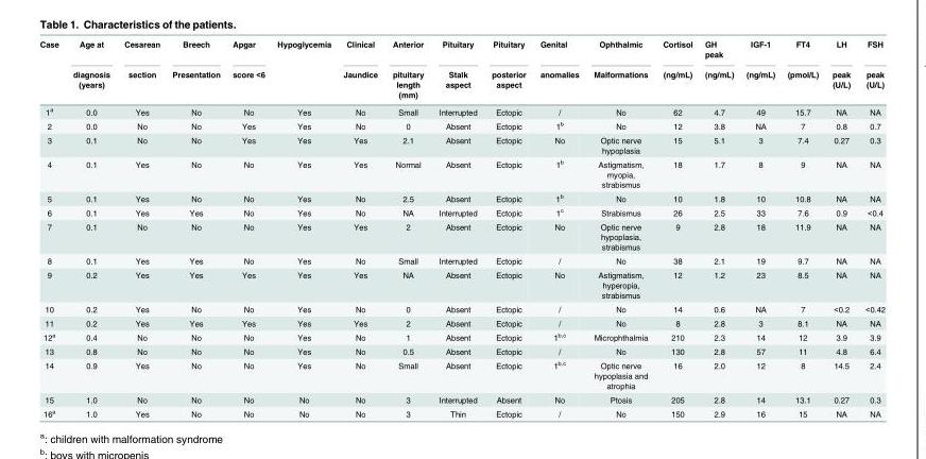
<table><thead><tr><td rowspan="2">Case</td><td rowspan="2">Age at diagnosis (years)</td><td rowspan="2">Cesarean section</td><td rowspan="2">Breech Presentation</td><td rowspan="2">Apgar score &lt;6</td><td rowspan="2">Hypoglycemia</td><td rowspan="2">Clinical Jaundice</td><td rowspan="2">Anterior pituitary length (mm)</td><td rowspan="2">Pituitary Stalk aspect</td><td rowspan="2">Pituitary posterior aspect</td><td rowspan="2">Genital anomalies</td><td rowspan="2">Ophthalmic Malformations</td><td rowspan="2">Cortisol (ng/mL)</td><td rowspan="2">GH peak (ng/mL)</td><td rowspan="2">IGF-1 (ng/mL)</td><td rowspan="2">FT4 (pmol/L)</td><td rowspan="2">LH peak (U/L)</td><td rowspan="2">FSH peak (U/L)</td></tr><tr></tr></thead><tbody><tr><td>1<sup>a</sup></td><td>0.0</td><td>Yes</td><td>No</td><td>No</td><td>Yes</td><td>No</td><td>Small</td><td>Interrupted</td><td>Ectopic</td><td>/</td><td>No</td><td>62</td><td>4.7</td><td>49</td><td>15.7</td><td>NA</td><td>NA</td></tr><tr><td>2</td><td>0.0</td><td>No</td><td>No</td><td>Yes</td><td>Yes</td><td>No</td><td>0</td><td>Absent</td><td>Ectopic</td><td>1<sup>b</sup></td><td>No</td><td>12</td><td>3.8</td><td>NA</td><td>7</td><td>0.8</td><td>0.7</td></tr><tr><td>3</td><td>0.1</td><td>No</td><td>No</td><td>Yes</td><td>Yes</td><td>Yes</td><td>2.1</td><td>Absent</td><td>Ectopic</td><td>No</td><td>Optic nerve hypoplasia</td><td>15</td><td>5.1</td><td>3</td><td>7.4</td><td>0.27</td><td>0.3</td></tr><tr><td>4</td><td>0.1</td><td>Yes</td><td>No</td><td>No</td><td>Yes</td><td>Yes</td><td>Normal</td><td>Absent</td><td>Ectopic</td><td>1<sup>b</sup></td><td>Astigmatism, myopia, strabismus</td><td>18</td><td>1.7</td><td>8</td><td>9</td><td>NA</td><td>NA</td></tr><tr><td>5</td><td>0.1</td><td>Yes</td><td>No</td><td>No</td><td>Yes</td><td>No</td><td>2.5</td><td>Absent</td><td>Ectopic</td><td>1<sup>b</sup></td><td>No</td><td>10</td><td>1.8</td><td>10</td><td>10.8</td><td>NA</td><td>NA</td></tr><tr><td>6</td><td>0.1</td><td>Yes</td><td>Yes</td><td>No</td><td>Yes</td><td>No</td><td>NA</td><td>Interrupted</td><td>Ectopic</td><td>1<sup>c</sup></td><td>Strabismus</td><td>26</td><td>2.5</td><td>33</td><td>7.6</td><td>0.9</td><td>&lt;0.4</td></tr><tr><td>7</td><td>0.1</td><td>No</td><td>No</td><td>No</td><td>Yes</td><td>Yes</td><td>2</td><td>Absent</td><td>Ectopic</td><td>No</td><td>Optic nerve hypoplasia, strabismus</td><td>9</td><td>2.8</td><td>18</td><td>11.9</td><td>NA</td><td>NA</td></tr><tr><td>8</td><td>0.1</td><td>Yes</td><td>Yes</td><td>No</td><td>Yes</td><td>No</td><td>Small</td><td>Interrupted</td><td>Ectopic</td><td>/</td><td>No</td><td>38</td><td>2.1</td><td>19</td><td>9.7</td><td>NA</td><td>NA</td></tr><tr><td>9</td><td>0.2</td><td>Yes</td><td>Yes</td><td>Yes</td><td>Yes</td><td>Yes</td><td>NA</td><td>Absent</td><td>Ectopic</td><td>No</td><td>Astigmatism, hyperopia, strabismus</td><td>12</td><td>1.2</td><td>23</td><td>8.5</td><td>NA</td><td>NA</td></tr><tr><td>10</td><td>0.2</td><td>Yes</td><td>No</td><td>No</td><td>Yes</td><td>No</td><td>0</td><td>Absent</td><td>Ectopic</td><td>/</td><td>No</td><td>14</td><td>0.6</td><td>NA</td><td>7</td><td>&lt;0.2</td><td>&lt;0.42</td></tr><tr><td>11</td><td>0.2</td><td>Yes</td><td>Yes</td><td>Yes</td><td>Yes</td><td>Yes</td><td>2</td><td>Absent</td><td>Ectopic</td><td>/</td><td>No</td><td>8</td><td>2.8</td><td>3</td><td>8.1</td><td>NA</td><td>NA</td></tr><tr><td>12<sup>a</sup></td><td>0.4</td><td>No</td><td>No</td><td>No</td><td>Yes</td><td>No</td><td>1</td><td>Absent</td><td>Ectopic</td><td>1<sup>b,c</sup></td><td>Microphthalmia</td><td>210</td><td>2.3</td><td>14</td><td>12</td><td>3.9</td><td>3.9</td></tr><tr><td>13</td><td>0.8</td><td>No</td><td>No</td><td>No</td><td>Yes</td><td>No</td><td>0.5</td><td>Absent</td><td>Ectopic</td><td>/</td><td>No</td><td>130</td><td>2.8</td><td>57</td><td>11</td><td>4.8</td><td>6.4</td></tr><tr><td>14</td><td>0.9</td><td>Yes</td><td>No</td><td>No</td><td>Yes</td><td>No</td><td>Small</td><td>Absent</td><td>Ectopic</td><td>1<sup>b,c</sup></td><td>Optic nerve hypoplasia and atrophia</td><td>16</td><td>2.0</td><td>12</td><td>8</td><td>14.5</td><td>2.4</td></tr><tr><td>15</td><td>1.0</td><td>No</td><td>No</td><td>No</td><td>No</td><td>No</td><td>3</td><td>Interrupted</td><td>Absent</td><td>No</td><td>Ptosis</td><td>205</td><td>2.8</td><td>14</td><td>13.1</td><td>0.27</td><td>0.3</td></tr><tr><td>16<sup>a</sup></td><td>1.0</td><td>Yes</td><td>No</td><td>No</td><td>No</td><td>No</td><td>3</td><td>Thin</td><td>Ectopic</td><td>/</td><td>No</td><td>150</td><td>2.9</td><td>16</td><td>15</td><td>NA</td><td>NA</td></tr></tbody></table>